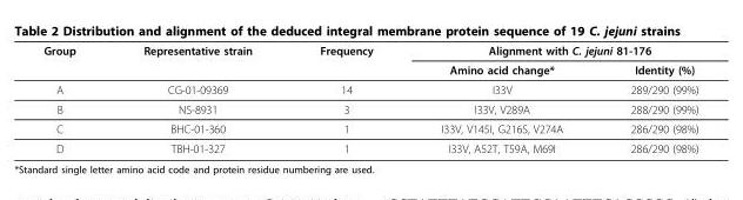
<table><thead><tr><td rowspan="2">Group</td><td rowspan="2">Representative strain</td><td rowspan="2">Frequency</td><td colspan="2">Alignment with C. jejuni 81-176</td></tr><tr><td>Amino acid change*</td><td>Identity (%)</td></tr></thead><tbody><tr><td>A</td><td>CG-01-09369</td><td>14</td><td>I33V</td><td>289/290 (99%)</td></tr><tr><td>B</td><td>NS-8931</td><td>3</td><td>I33V, V289A</td><td>288/290 (99%)</td></tr><tr><td>C</td><td>BHC-01-360</td><td>1</td><td>I33V, V145I, G216S, V274A</td><td>286/290 (98%)</td></tr><tr><td>D</td><td>TBH-01-327</td><td>1</td><td>I33V, A52T, T59A, M69I</td><td>286/290 (98%)</td></tr></tbody></table>